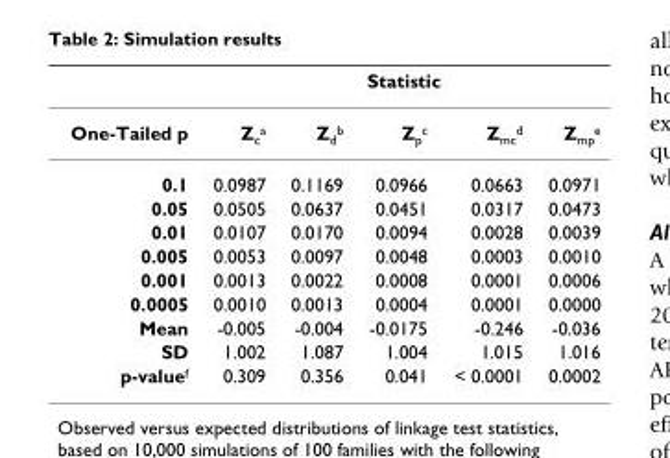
<table><thead><tr><td rowspan="2">One-Tailed p</td><td colspan="5">Statistic</td></tr><tr><td>Z<sub>c</sub><sup>a</sup></td><td>Z<sub>d</sub><sup>b</sup></td><td>Z<sub>p</sub><sup>c</sup></td><td>Z<sub>mc</sub><sup>d</sup></td><td>Z<sub>mp</sub><sup>e</sup></td></tr></thead><tbody><tr><td>0.1</td><td>0.0987</td><td>0.1169</td><td>0.0966</td><td>0.0663</td><td>0.0971</td></tr><tr><td>0.05</td><td>0.0505</td><td>0.0637</td><td>0.0451</td><td>0.0317</td><td>0.0473</td></tr><tr><td>0.01</td><td>0.0107</td><td>0.0170</td><td>0.0094</td><td>0.0028</td><td>0.0039</td></tr><tr><td>0.005</td><td>0.0053</td><td>0.0097</td><td>0.0048</td><td>0.0003</td><td>0.0010</td></tr><tr><td>0.001</td><td>0.0013</td><td>0.0022</td><td>0.0008</td><td>0.0001</td><td>0.0006</td></tr><tr><td>0.0005</td><td>0.0010</td><td>0.0013</td><td>0.0004</td><td>0.0001</td><td>0.0000</td></tr><tr><td>Mean</td><td>-0.005</td><td>-0.004</td><td>-0.0175</td><td>-0.246</td><td>-0.036</td></tr><tr><td>SD</td><td>1.002</td><td>1.087</td><td>1.004</td><td>1.015</td><td>1.016</td></tr><tr><td>p-value<sup>f</sup></td><td>0.309</td><td>0.356</td><td>0.041</td><td>&lt; 0.0001</td><td>0.0002</td></tr></tbody></table>